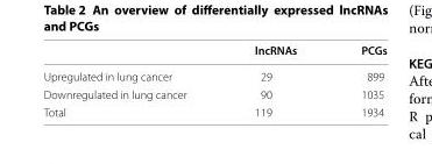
<table><thead><tr><td></td><td>lncRNAs</td><td>PCGs</td></tr></thead><tbody><tr><td>Upregulated in lung cancer</td><td>29</td><td>899</td></tr><tr><td>Downregulated in lung cancer</td><td>90</td><td>1035</td></tr><tr><td>Total</td><td>119</td><td>1934</td></tr></tbody></table>